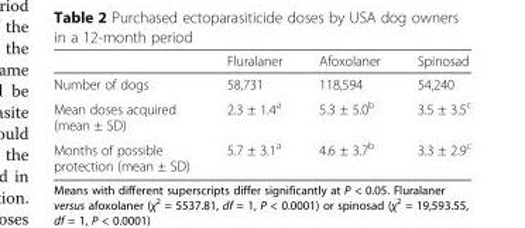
<table><thead><tr><td></td><td>Fluralaner</td><td>Afoxolaner</td><td>Spinosad</td></tr></thead><tbody><tr><td>Number of dogs</td><td>58,731</td><td>118,594</td><td>54,240</td></tr><tr><td>Mean doses acquired (mean ± SD)</td><td>2.3 ± 1.4<sup>a</sup></td><td>5.3 ± 5.0<sup>b</sup></td><td>3.5 ± 3.5<sup>c</sup></td></tr><tr><td>Months of possible protection (mean ± SD)</td><td>5.7 ± 3.1<sup>a</sup></td><td>4.6 ± 3.7<sup>b</sup></td><td>3.3 ± 2.9<sup>c</sup></td></tr></tbody></table>